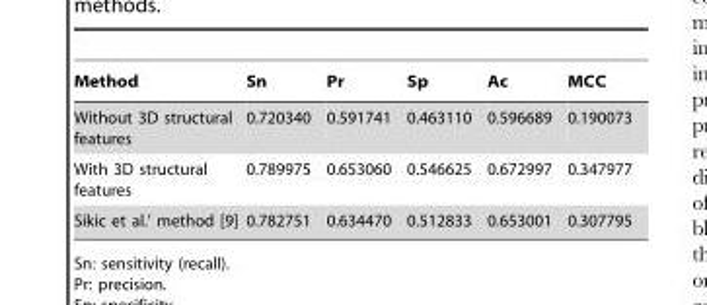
<table><thead><tr><td>Method</td><td>Sn</td><td>Pr</td><td>Sp</td><td>Ac</td><td>MCC</td></tr></thead><tbody><tr><td>Without 3D structural features</td><td>0.720340</td><td>0.591741</td><td>0.463110</td><td>0.596689</td><td>0.190073</td></tr><tr><td>With 3D structural features</td><td>0.789975</td><td>0.653060</td><td>0.546625</td><td>0.672997</td><td>0.347977</td></tr><tr><td>Sikic et al.’ method [9]</td><td>0.782751</td><td>0.634470</td><td>0.512833</td><td>0.653001</td><td>0.307795</td></tr></tbody></table>